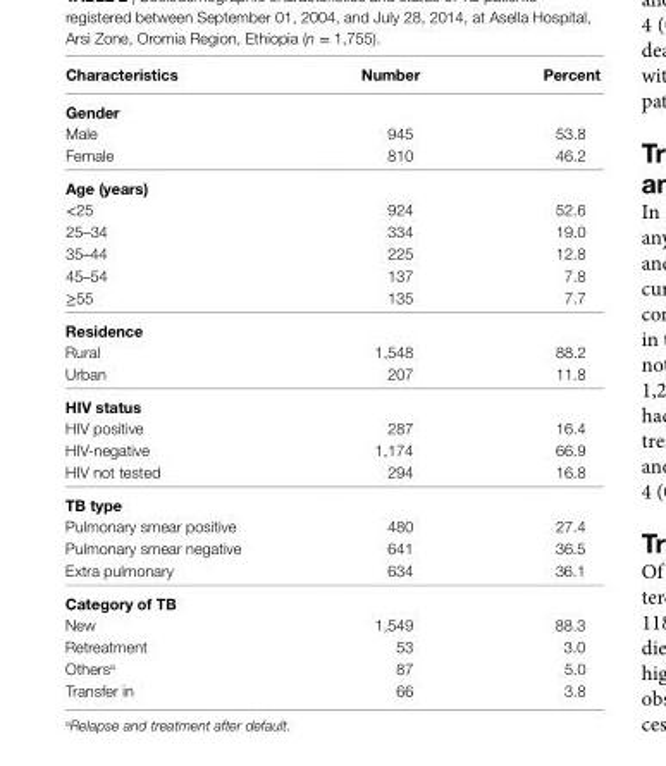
<table><thead><tr><td>characteristics</td><td>number</td><td>Percent</td></tr></thead><tbody><tr><td colspan="3">gender</td></tr><tr><td>Male</td><td>945</td><td>53.8</td></tr><tr><td>Female</td><td>810</td><td>46.2</td></tr><tr><td colspan="3">age (years)</td></tr><tr><td>&lt;25</td><td>924</td><td>52.6</td></tr><tr><td>25–34</td><td>334</td><td>19.0</td></tr><tr><td>35–44</td><td>225</td><td>12.8</td></tr><tr><td>45–54</td><td>137</td><td>7.8</td></tr><tr><td>≥55</td><td>135</td><td>7.7</td></tr><tr><td colspan="3">residence</td></tr><tr><td>Rural</td><td>1,548</td><td>88.2</td></tr><tr><td>Urban</td><td>207</td><td>11.8</td></tr><tr><td colspan="3">hiV status</td></tr><tr><td>HIV positive</td><td>287</td><td>16.4</td></tr><tr><td>HIV-negative</td><td>1,174</td><td>66.9</td></tr><tr><td>HIV not tested</td><td>294</td><td>16.8</td></tr><tr><td colspan="3">TB type</td></tr><tr><td>Pulmonary smear positive</td><td>480</td><td>27.4</td></tr><tr><td>Pulmonary smear negative</td><td>641</td><td>36.5</td></tr><tr><td>Extra pulmonary</td><td>634</td><td>36.1</td></tr><tr><td colspan="3">category of TB</td></tr><tr><td>New</td><td>1,549</td><td>88.3</td></tr><tr><td>Retreatment</td><td>53</td><td>3.0</td></tr><tr><td>Others<sup>a</sup></td><td>87</td><td>5.0</td></tr><tr><td>Transfer in</td><td>66</td><td>3.8</td></tr></tbody></table>